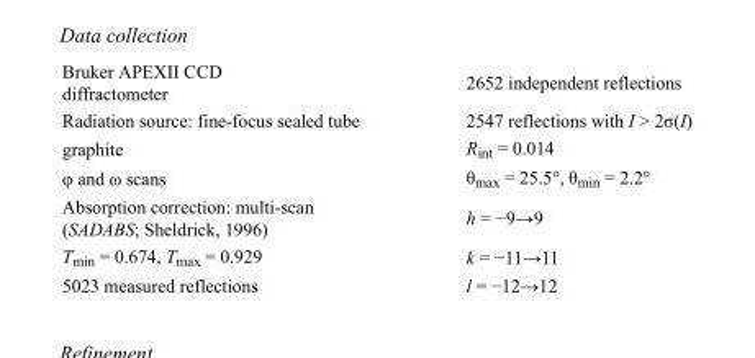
<table><tbody><tr><td>Bruker APEXII CCD diffractometer</td><td>2652 independent reflections</td></tr><tr><td>Radiation source: fine-focus sealed tube</td><td>2547 reflections with I &gt; 2σ(I)</td></tr><tr><td>graphite</td><td>R<sub>int</sub> = 0.014</td></tr><tr><td>φ and ω scans</td><td>θ<sub>max</sub> = 25.5°, θ<sub>min</sub> = 2.2°</td></tr><tr><td>Absorption correction: multi-scan (SADABS; Sheldrick, 1996)</td><td>h = −9→9</td></tr><tr><td>T<sub>min</sub> = 0.674, T<sub>max</sub> = 0.929</td><td>k = −11→11</td></tr><tr><td>5023 measured reflections</td><td>l = −12→12</td></tr></tbody></table>